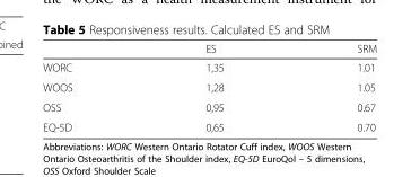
<table><thead><tr><td></td><td>ES</td><td>SRM</td></tr></thead><tbody><tr><td>WORC</td><td>1,35</td><td>1.01</td></tr><tr><td>WOOS</td><td>1,28</td><td>1.05</td></tr><tr><td>OSS</td><td>0,95</td><td>0.67</td></tr><tr><td>EQ-5D</td><td>0,65</td><td>0.70</td></tr></tbody></table>